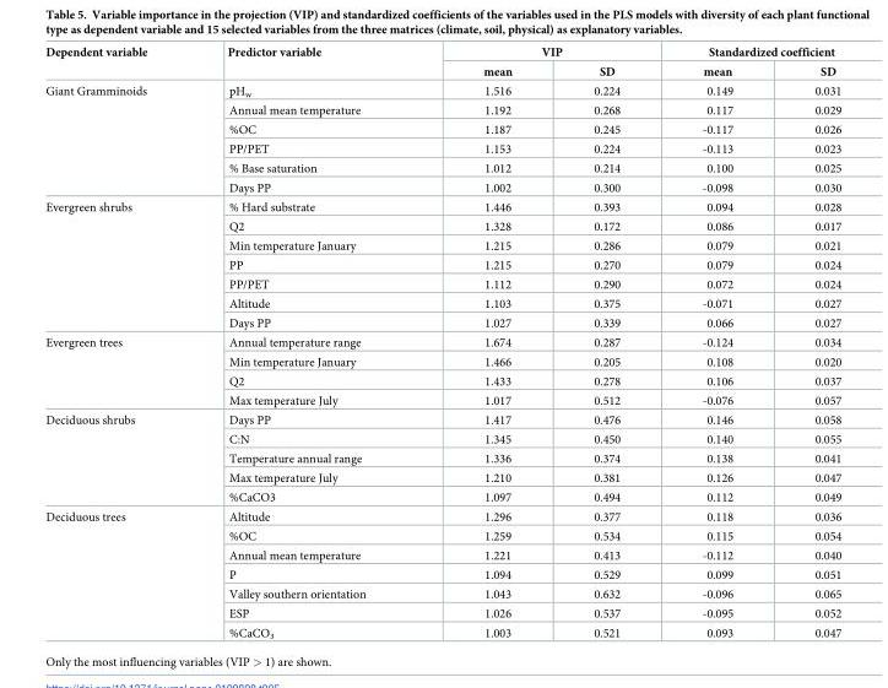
<table><thead><tr><td rowspan="2">Dependent variable</td><td rowspan="2">Predictor variable</td><td colspan="2">VIP</td><td colspan="2">Standardized coefficient</td></tr><tr><td>mean</td><td>SD</td><td>mean</td><td>SD</td></tr></thead><tbody><tr><td rowspan="6">Giant Gramminoids</td><td>pH<sub>w</sub></td><td>1.516</td><td>0.224</td><td>0.149</td><td>0.031</td></tr><tr><td>Annual mean temperature</td><td>1.192</td><td>0.268</td><td>0.117</td><td>0.029</td></tr><tr><td>%OC</td><td>1.187</td><td>0.245</td><td>-0.117</td><td>0.026</td></tr><tr><td>PP/PET</td><td>1.153</td><td>0.224</td><td>-0.113</td><td>0.023</td></tr><tr><td>% Base saturation</td><td>1.012</td><td>0.214</td><td>0.100</td><td>0.025</td></tr><tr><td>Days PP</td><td>1.002</td><td>0.300</td><td>-0.098</td><td>0.030</td></tr><tr><td rowspan="7">Evergreen shrubs</td><td>% Hard substrate</td><td>1.446</td><td>0.393</td><td>0.094</td><td>0.028</td></tr><tr><td>Q2</td><td>1.328</td><td>0.172</td><td>0.086</td><td>0.017</td></tr><tr><td>Min temperature January</td><td>1.215</td><td>0.286</td><td>0.079</td><td>0.021</td></tr><tr><td>PP</td><td>1.215</td><td>0.270</td><td>0.079</td><td>0.024</td></tr><tr><td>PP/PET</td><td>1.112</td><td>0.290</td><td>0.072</td><td>0.024</td></tr><tr><td>Altitude</td><td>1.103</td><td>0.375</td><td>-0.071</td><td>0.027</td></tr><tr><td>Days PP</td><td>1.027</td><td>0.339</td><td>0.066</td><td>0.027</td></tr><tr><td rowspan="4">Evergreen trees</td><td>Annual temperature range</td><td>1.674</td><td>0.287</td><td>-0.124</td><td>0.034</td></tr><tr><td>Min temperature January</td><td>1.466</td><td>0.205</td><td>0.108</td><td>0.020</td></tr><tr><td>Q2</td><td>1.433</td><td>0.278</td><td>0.106</td><td>0.037</td></tr><tr><td>Max temperature July</td><td>1.017</td><td>0.512</td><td>-0.076</td><td>0.057</td></tr><tr><td rowspan="5">Deciduous shrubs</td><td>Days PP</td><td>1.417</td><td>0.476</td><td>0.146</td><td>0.058</td></tr><tr><td>C:N</td><td>1.345</td><td>0.450</td><td>0.140</td><td>0.055</td></tr><tr><td>Temperature annual range</td><td>1.336</td><td>0.374</td><td>0.138</td><td>0.041</td></tr><tr><td>Max temperature July</td><td>1.210</td><td>0.381</td><td>0.126</td><td>0.047</td></tr><tr><td>%CaCO3</td><td>1.097</td><td>0.494</td><td>0.112</td><td>0.049</td></tr><tr><td rowspan="7">Deciduous trees</td><td>Altitude</td><td>1.296</td><td>0.377</td><td>0.118</td><td>0.036</td></tr><tr><td>%OC</td><td>1.259</td><td>0.534</td><td>0.115</td><td>0.054</td></tr><tr><td>Annual mean temperature</td><td>1.221</td><td>0.413</td><td>-0.112</td><td>0.040</td></tr><tr><td>P</td><td>1.094</td><td>0.529</td><td>0.099</td><td>0.051</td></tr><tr><td>Valley southern orientation</td><td>1.043</td><td>0.632</td><td>-0.096</td><td>0.065</td></tr><tr><td>ESP</td><td>1.026</td><td>0.537</td><td>-0.095</td><td>0.052</td></tr><tr><td>%CaCO<sub>3</sub></td><td>1.003</td><td>0.521</td><td>0.093</td><td>0.047</td></tr></tbody></table>